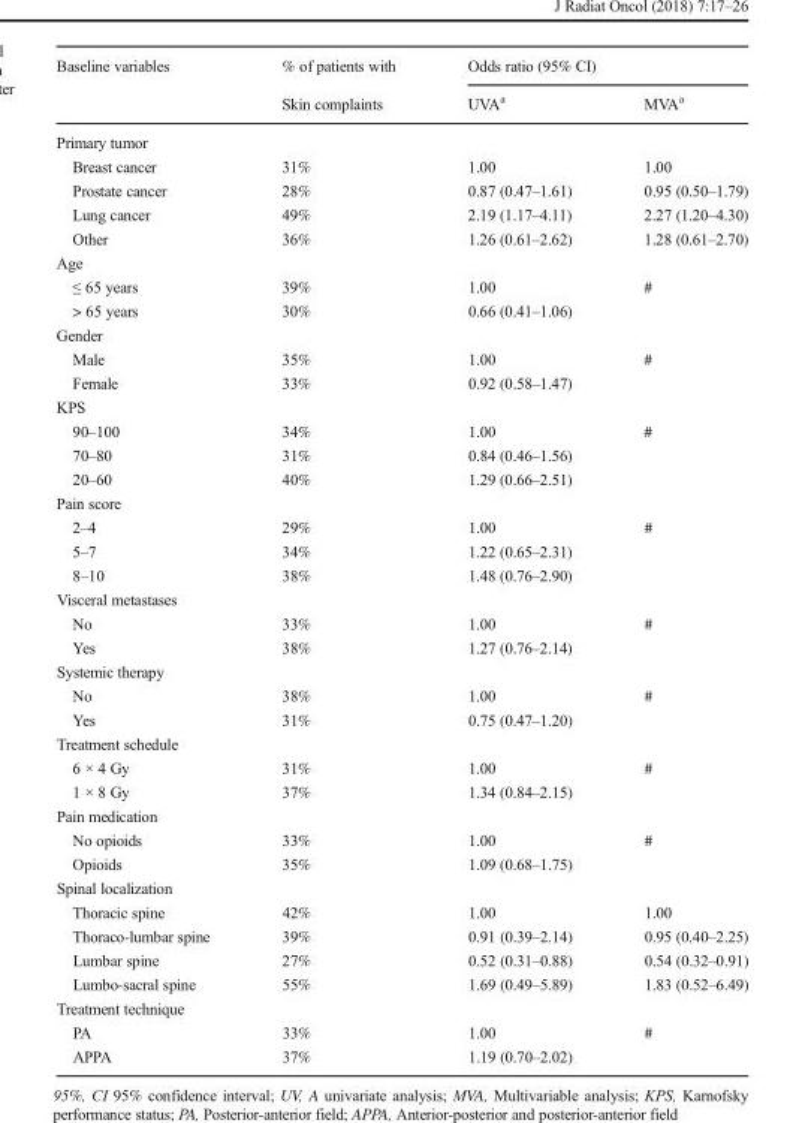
<table><thead><tr><td rowspan="2">Baseline variables</td><td rowspan="2">% of patients with Skin complaints</td><td colspan="2">Odds ratio (95% CI)</td></tr><tr><td>UVA<sup>a</sup></td><td>MVA<sup>a</sup></td></tr></thead><tbody><tr><td colspan="4">Primary tumor</td></tr><tr><td>Breast cancer</td><td>31%</td><td>1.00</td><td>1.00</td></tr><tr><td>Prostate cancer</td><td>28%</td><td>0.87 (0.47–1.61)</td><td>0.95 (0.50–1.79)</td></tr><tr><td>Lung cancer</td><td>49%</td><td>2.19 (1.17–4.11)</td><td>2.27 (1.20–4.30)</td></tr><tr><td>Other</td><td>36%</td><td>1.26 (0.61–2.62)</td><td>1.28 (0.61–2.70)</td></tr><tr><td colspan="4">Age</td></tr><tr><td>≤ 65 years</td><td>39%</td><td>1.00</td><td>#</td></tr><tr><td>&gt; 65 years</td><td>30%</td><td>0.66 (0.41–1.06)</td><td></td></tr><tr><td colspan="4">Gender</td></tr><tr><td>Male</td><td>35%</td><td>1.00</td><td>#</td></tr><tr><td>Female</td><td>33%</td><td>0.92 (0.58–1.47)</td><td></td></tr><tr><td colspan="4">KPS</td></tr><tr><td>90–100</td><td>34%</td><td>1.00</td><td>#</td></tr><tr><td>70–80</td><td>31%</td><td>0.84 (0.46–1.56)</td><td></td></tr><tr><td>20–60</td><td>40%</td><td>1.29 (0.66–2.51)</td><td></td></tr><tr><td colspan="4">Pain score</td></tr><tr><td>2–4</td><td>29%</td><td>1.00</td><td>#</td></tr><tr><td>5–7</td><td>34%</td><td>1.22 (0.65–2.31)</td><td></td></tr><tr><td>8–10</td><td>38%</td><td>1.48 (0.76–2.90)</td><td></td></tr><tr><td colspan="4">Visceral metastases</td></tr><tr><td>No</td><td>33%</td><td>1.00</td><td>#</td></tr><tr><td>Yes</td><td>38%</td><td>1.27 (0.76–2.14)</td><td></td></tr><tr><td colspan="4">Systemic therapy</td></tr><tr><td>No</td><td>38%</td><td>1.00</td><td>#</td></tr><tr><td>Yes</td><td>31%</td><td>0.75 (0.47–1.20)</td><td></td></tr><tr><td colspan="4">Treatment schedule</td></tr><tr><td>6 × 4 Gy</td><td>31%</td><td>1.00</td><td>#</td></tr><tr><td>1 × 8 Gy</td><td>37%</td><td>1.34 (0.84–2.15)</td><td></td></tr><tr><td colspan="4">Pain medication</td></tr><tr><td>No opioids</td><td>33%</td><td>1.00</td><td>#</td></tr><tr><td>Opioids</td><td>35%</td><td>1.09 (0.68–1.75)</td><td></td></tr><tr><td colspan="4">Spinal localization</td></tr><tr><td>Thoracic spine</td><td>42%</td><td>1.00</td><td>1.00</td></tr><tr><td>Thoraco-lumbar spine</td><td>39%</td><td>0.91 (0.39–2.14)</td><td>0.95 (0.40–2.25)</td></tr><tr><td>Lumbar spine</td><td>27%</td><td>0.52 (0.31–0.88)</td><td>0.54 (0.32–0.91)</td></tr><tr><td>Lumbo-sacral spine</td><td>55%</td><td>1.69 (0.49–5.89)</td><td>1.83 (0.52–6.49)</td></tr><tr><td colspan="4">Treatment technique</td></tr><tr><td>PA</td><td>33%</td><td>1.00</td><td>#</td></tr><tr><td>APPA</td><td>37%</td><td>1.19 (0.70–2.02)</td><td></td></tr></tbody></table>